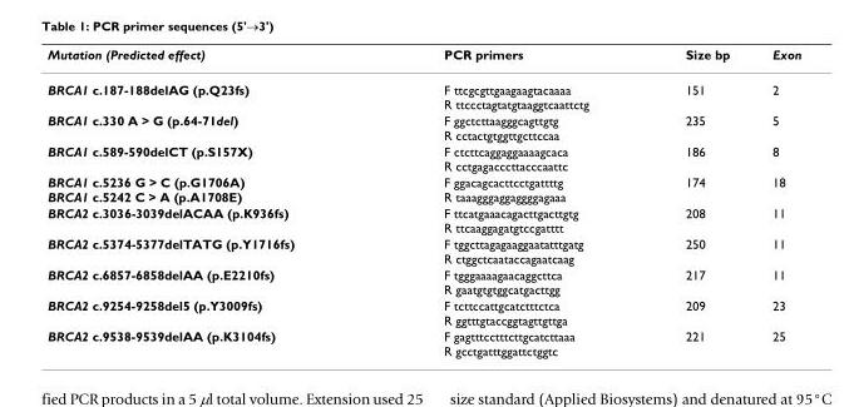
<table><thead><tr><td>Mutation (Predicted effect)</td><td>PCR primers</td><td>Size bp</td><td>Exon</td></tr></thead><tbody><tr><td>BRCA1 c.187-188delAG (p.Q23fs)</td><td>F ttcgcgttgaagaagtacaaaa R ttccctagtatgtaaggtcaattctg</td><td>151</td><td>2</td></tr><tr><td>BRCA1 c.330 A &gt; G (p.64-71del)</td><td>F ggctcttaagggcagttgtg R cctactgtggttgcttccaa</td><td>235</td><td>5</td></tr><tr><td>BRCA1 c.589-590delCT (p.S157X)</td><td>F ctcttcaggaggaaaagcaca R cctgagacccttacccaattc</td><td>186</td><td>8</td></tr><tr><td>BRCA1 c.5236 G &gt; C (p.G1706A) BRCA1 c.5242 C &gt; A (p.A1708E)</td><td>F ggacagcacttcctgattttg R taaagggaggaggggagaaa</td><td>174</td><td>18</td></tr><tr><td>BRCA2 c.3036-3039delACAA (p.K936fs)</td><td>F ttcatgaaacagacttgacttgtg R ttcaaggagatgtccgatttt</td><td>208</td><td>11</td></tr><tr><td>BRCA2 c.5374-5377delTATG (p.Y1716fs)</td><td>F tggcttagagaaggaatatttgatg R ctggctcaataccagaatcaag</td><td>250</td><td>11</td></tr><tr><td>BRCA2 c.6857-6858delAA (p.E2210fs)</td><td>F tgggaaaagaacaggcttca R gaatgtgtggcatgacttgg</td><td>217</td><td>11</td></tr><tr><td>BRCA2 c.9254-9258del5 (p.Y3009fs)</td><td>F tcttccattgcatctttctca R ggtttgtaccggtagttgttga</td><td>209</td><td>23</td></tr><tr><td>BRCA2 c.9538-9539delAA (p.K3104fs)</td><td>F gagtttcctttcttgcatcttaaa R gcctgatttggattctggtc</td><td>221</td><td>25</td></tr></tbody></table>